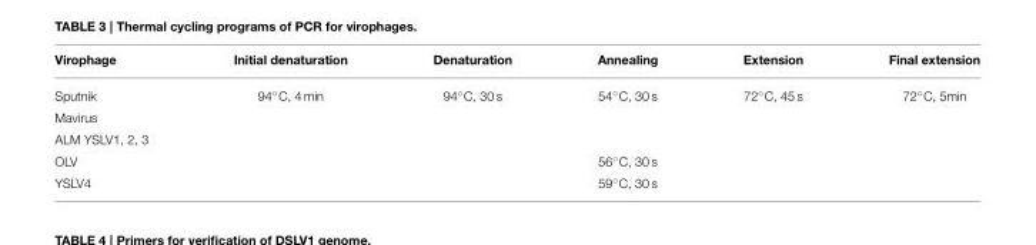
<table><thead><tr><td>Virophage</td><td>Initial denaturation</td><td>Denaturation</td><td>Annealing</td><td>Extension</td><td>Final extension</td></tr></thead><tbody><tr><td>Sputnik</td><td>94◦C, 4 min</td><td>94◦C, 30 s</td><td>54◦C, 30 s</td><td>72◦C, 45 s</td><td>72◦C, 5min</td></tr><tr><td colspan="6">Mavirus</td></tr><tr><td colspan="6">ALM YSLV1, 2, 3</td></tr><tr><td>OLV</td><td></td><td></td><td>56◦C, 30 s</td><td></td><td></td></tr><tr><td>YSLV4</td><td></td><td></td><td>59◦C, 30 s</td><td></td><td></td></tr></tbody></table>